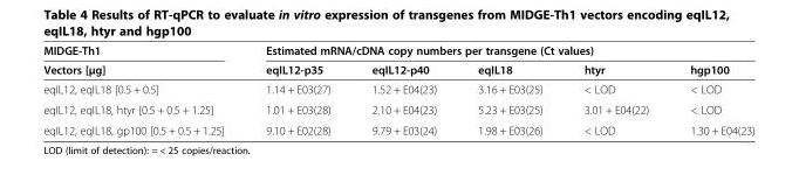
<table><thead><tr><td rowspan="2">MIDGE-Th1 Vectors [μg]</td><td colspan="5">Estimated mRNA/cDNA copy numbers per transgene (Ct values)</td></tr><tr><td>eqIL12-p35</td><td>eqIL12-p40</td><td>eqIL18</td><td>htyr</td><td>hgp100</td></tr></thead><tbody><tr><td>eqIL12, eqIL18 [0.5 + 0.5]</td><td>1.14 + E03(27)</td><td>1.52 + E04(23)</td><td>3.16 + E03(25)</td><td>&lt; LOD</td><td>&lt; LOD</td></tr><tr><td>eqIL12, eqIL18, htyr [0.5 + 0.5 + 1.25]</td><td>1.01 + E03(28)</td><td>2.10 + E04(23)</td><td>5.23 + E03(25)</td><td>3.01 + E04(22)</td><td>&lt; LOD</td></tr><tr><td>eqIL12, eqIL18, gp100 [0.5 + 0.5 + 1.25]</td><td>9.10 + E02(28)</td><td>9.79 + E03(24)</td><td>1.98 + E03(26)</td><td>&lt; LOD</td><td>1.30 + E04(23)</td></tr></tbody></table>